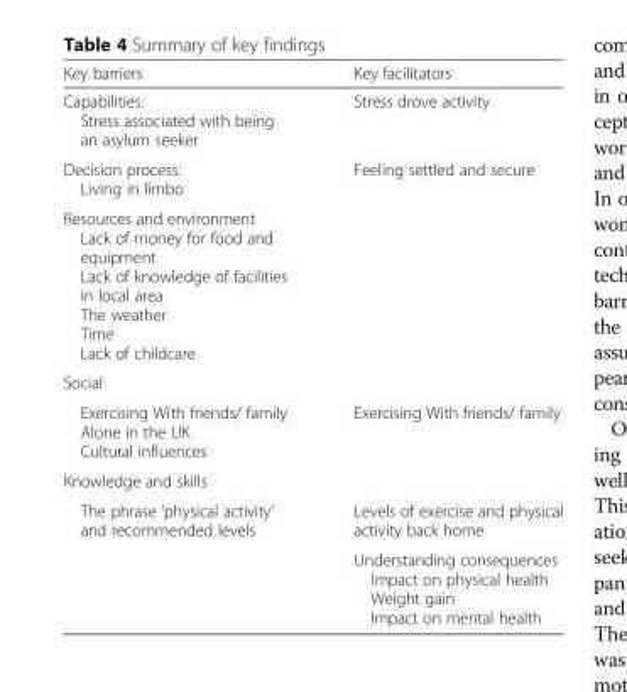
<table><thead><tr><td>Key barriers</td><td>Key facilitators</td></tr></thead><tbody><tr><td>Capabilities: Stress associated with being an asylum seeker</td><td>Stress drove activity</td></tr><tr><td>Decision process: Living in limbo</td><td>Feeling settled and secure</td></tr><tr><td colspan="2">Resources and environment Lack of money for food and equipment Lack of knowledge of facilities in local area The weather Time Lack of childcare</td></tr><tr><td colspan="2">Social</td></tr><tr><td>Exercising With friends/ family Alone in the UK Cultural influences</td><td>Exercising With friends/ family</td></tr><tr><td colspan="2">Knowledge and skills</td></tr><tr><td rowspan="2">The phrase ‘physical activity’ and recommended levels</td><td>Levels of exercise and physical activity back home</td></tr><tr><td>Understanding consequences Impact on physical health Weight gain Impact on mental health</td></tr></tbody></table>